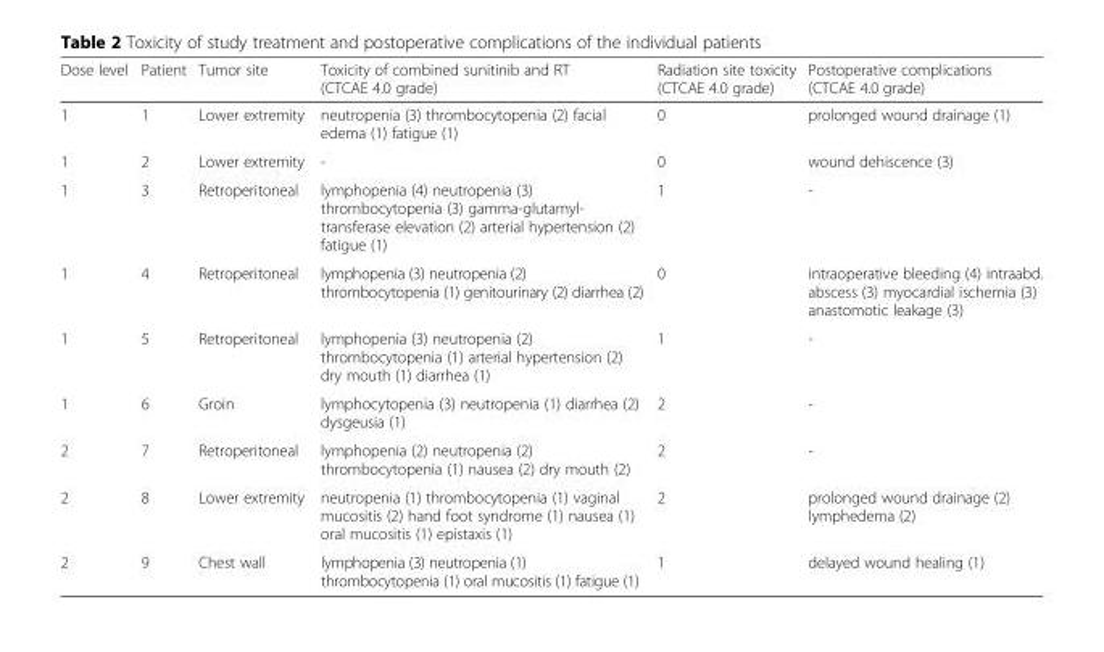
<table><thead><tr><td>Dose level</td><td>Patient</td><td>Tumor site</td><td>Toxicity of combined sunitinib and RT (CTCAE 4.0 grade)</td><td>Radiation site toxicity (CTCAE 4.0 grade)</td><td>Postoperative complications (CTCAE 4.0 grade)</td></tr></thead><tbody><tr><td>1</td><td>1</td><td>Lower extremity</td><td>neutropenia (3) thrombocytopenia (2) facial edema (1) fatigue (1)</td><td>0</td><td>prolonged wound drainage (1)</td></tr><tr><td>1</td><td>2</td><td>Lower extremity</td><td>-</td><td>0</td><td>wound dehiscence (3)</td></tr><tr><td>1</td><td>3</td><td>Retroperitoneal</td><td>lymphopenia (4) neutropenia (3) thrombocytopenia (3) gamma-glutamyl- transferase elevation (2) arterial hypertension (2) fatigue (1)</td><td>1</td><td>-</td></tr><tr><td>1</td><td>4</td><td>Retroperitoneal</td><td>lymphopenia (3) neutropenia (2) thrombocytopenia (1) genitourinary (2) diarrhea (2)</td><td>0</td><td>intraoperative bleeding (4) intraabd. abscess (3) myocardial ischemia (3) anastomotic leakage (3)</td></tr><tr><td>1</td><td>5</td><td>Retroperitoneal</td><td>lymphopenia (3) neutropenia (2) thrombocytopenia (1) arterial hypertension (2) dry mouth (1) diarrhea (1)</td><td>1</td><td>-</td></tr><tr><td>1</td><td>6</td><td>Groin</td><td>lymphocytopenia (3) neutropenia (1) diarrhea (2) dysgeusia (1)</td><td>2</td><td>-</td></tr><tr><td>2</td><td>7</td><td>Retroperitoneal</td><td>lymphopenia (2) neutropenia (2) thrombocytopenia (1) nausea (2) dry mouth (2)</td><td>2</td><td>-</td></tr><tr><td>2</td><td>8</td><td>Lower extremity</td><td>neutropenia (1) thrombocytopenia (1) vaginal mucositis (2) hand foot syndrome (1) nausea (1) oral mucositis (1) epistaxis (1)</td><td>2</td><td>prolonged wound drainage (2) lymphedema (2)</td></tr><tr><td>2</td><td>9</td><td>Chest wall</td><td>lymphopenia (3) neutropenia (1) thrombocytopenia (1) oral mucositis (1) fatigue (1)</td><td>1</td><td>delayed wound healing (1)</td></tr></tbody></table>